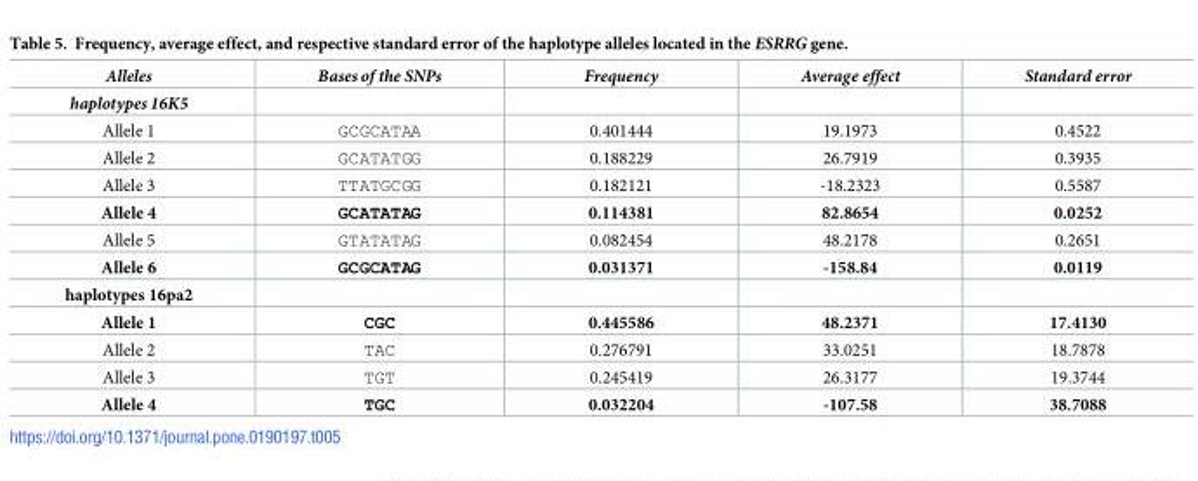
<table><thead><tr><td>Alleles</td><td>Bases of the SNPs</td><td>Frequency</td><td>Average effect</td><td>Standard error</td></tr></thead><tbody><tr><td colspan="5">haplotypes 16K5</td></tr><tr><td>Allele 1</td><td>GCGCATAA</td><td>0.401444</td><td>19.1973</td><td>0.4522</td></tr><tr><td>Allele 2</td><td>GCATATGG</td><td>0.188229</td><td>26.7919</td><td>0.3935</td></tr><tr><td>Allele 3</td><td>TTATGCGG</td><td>0.182121</td><td>-18.2323</td><td>0.5587</td></tr><tr><td>Allele 4</td><td>GCATATAG</td><td>0.114381</td><td>82.8654</td><td>0.0252</td></tr><tr><td>Allele 5</td><td>GTATATAG</td><td>0.082454</td><td>48.2178</td><td>0.2651</td></tr><tr><td>Allele 6</td><td>GCGCATAG</td><td>0.031371</td><td>-158.84</td><td>0.0119</td></tr><tr><td colspan="5">haplotypes 16pa2</td></tr><tr><td>Allele 1</td><td>CGC</td><td>0.445586</td><td>48.2371</td><td>17.4130</td></tr><tr><td>Allele 2</td><td>TAC</td><td>0.276791</td><td>33.0251</td><td>18.7878</td></tr><tr><td>Allele 3</td><td>TGT</td><td>0.245419</td><td>26.3177</td><td>19.3744</td></tr><tr><td>Allele 4</td><td>TGC</td><td>0.032204</td><td>-107.58</td><td>38.7088</td></tr></tbody></table>